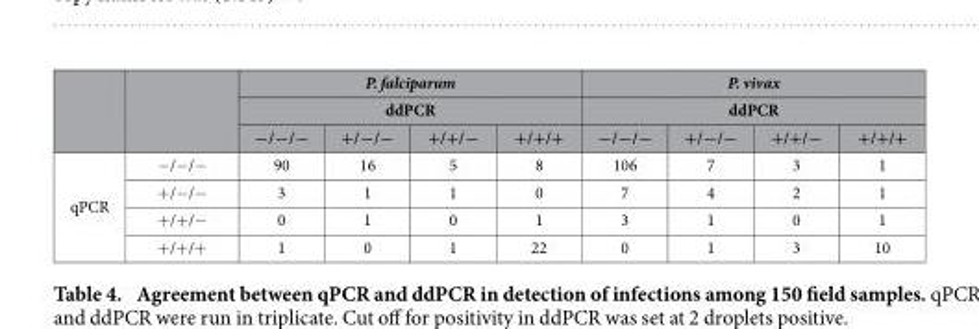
<table><thead><tr><td rowspan="3"></td><td rowspan="3"></td><td rowspan="2" colspan="4">P. falciparum ddPCR</td><td rowspan="2" colspan="4">P. vivax ddPCR</td></tr><tr></tr><tr><td>−/−/−</td><td>+/−/−</td><td>+/+/−</td><td>+/+/+</td><td>−/−/−</td><td>+/−/−</td><td>+/+/−</td><td>+/+/+</td></tr></thead><tbody><tr><td rowspan="4">qPCR</td><td>− /− /−</td><td>90</td><td>16</td><td>5</td><td>8</td><td>106</td><td>7</td><td>3</td><td>1</td></tr><tr><td>+ /− /−</td><td>3</td><td>1</td><td>1</td><td>0</td><td>7</td><td>4</td><td>2</td><td>1</td></tr><tr><td>+ /+ /−</td><td>0</td><td>1</td><td>0</td><td>1</td><td>3</td><td>1</td><td>0</td><td>1</td></tr><tr><td>+ /+ /+</td><td>1</td><td>0</td><td>1</td><td>22</td><td>0</td><td>1</td><td>3</td><td>10</td></tr></tbody></table>